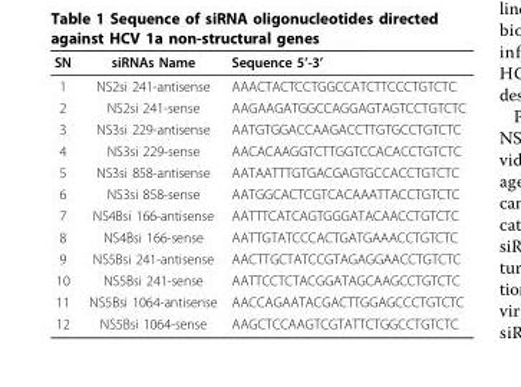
<table><thead><tr><td>SN</td><td>siRNAs Name</td><td>Sequence 5’-3’</td></tr></thead><tbody><tr><td>1</td><td>NS2si 241-antisense</td><td>AAACTACTCCTGGCCATCTTCCCTGTCTC</td></tr><tr><td>2</td><td>NS2si 241-sense</td><td>AAGAAGATGGCCAGGAGTAGTCCTGTCTC</td></tr><tr><td>3</td><td>NS3si 229-antisense</td><td>AATGTGGACCAAGACCTTGTGCCTGTCTC</td></tr><tr><td>4</td><td>NS3si 229-sense</td><td>AACACAAGGTCTTGGTCCACACCTGTCTC</td></tr><tr><td>5</td><td>NS3si 858-antisense</td><td>AATAATTTGTGACGAGTGCCACCTGTCTC</td></tr><tr><td>6</td><td>NS3si 858-sense</td><td>AATGGCACTCGTCACAAATTACCTGTCTC</td></tr><tr><td>7</td><td>NS4Bsi 166-antisense</td><td>AATTTCATCAGTGGGATACAACCTGTCTC</td></tr><tr><td>8</td><td>NS4Bsi 166-sense</td><td>AATTGTATCCCACTGATGAAACCTGTCTC</td></tr><tr><td>9</td><td>NS5Bsi 241-antisense</td><td>AACTTGCTATCCGTAGAGGAACCTGTCTC</td></tr><tr><td>10</td><td>NS5Bsi 241-sense</td><td>AATTCCTCTACGGATAGCAAGCCTGTCTC</td></tr><tr><td>11</td><td>NS5Bsi 1064-antisense</td><td>AACCAGAATACGACTTGGAGCCCTGTCTC</td></tr><tr><td>12</td><td>NS5Bsi 1064-sense</td><td>AAGCTCCAAGTCGTATTCTGGCCTGTCTC</td></tr></tbody></table>